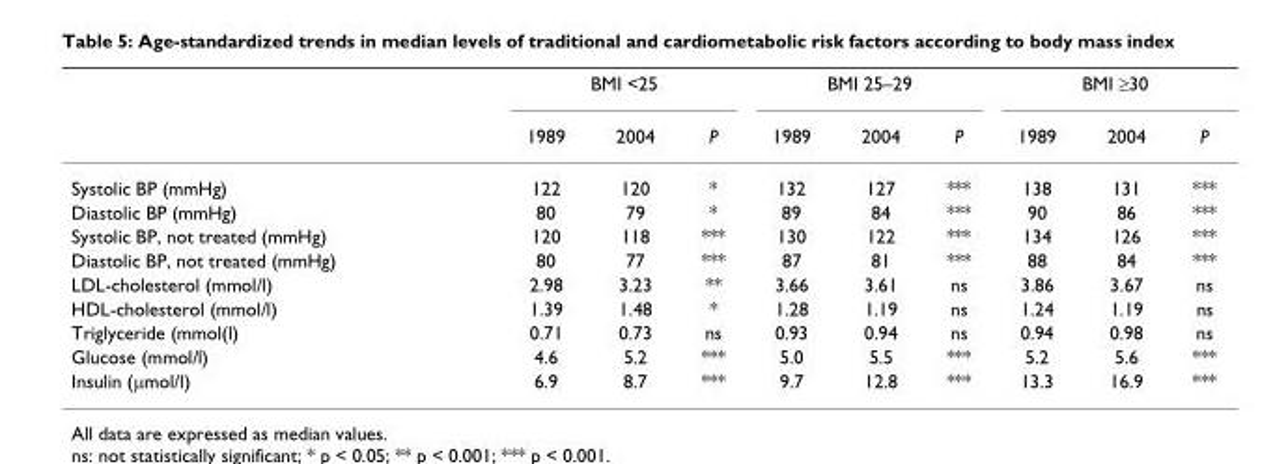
<table><thead><tr><td rowspan="2"></td><td colspan="3">BMI &lt;25</td><td colspan="3">BMI 25–29</td><td colspan="3">BMI ≥30</td></tr><tr><td>1989</td><td>2004</td><td>P</td><td>1989</td><td>2004</td><td>P</td><td>1989</td><td>2004</td><td>P</td></tr></thead><tbody><tr><td>Systolic BP (mmHg)</td><td>122</td><td>120</td><td>*</td><td>132</td><td>127</td><td>***</td><td>138</td><td>131</td><td>***</td></tr><tr><td>Diastolic BP (mmHg)</td><td>80</td><td>79</td><td>*</td><td>89</td><td>84</td><td>***</td><td>90</td><td>86</td><td>***</td></tr><tr><td>Systolic BP, not treated (mmHg)</td><td>120</td><td>118</td><td>***</td><td>130</td><td>122</td><td>***</td><td>134</td><td>126</td><td>***</td></tr><tr><td>Diastolic BP, not treated (mmHg)</td><td>80</td><td>77</td><td>***</td><td>87</td><td>81</td><td>***</td><td>88</td><td>84</td><td>***</td></tr><tr><td>LDL-cholesterol (mmol/l)</td><td>2.98</td><td>3.23</td><td>**</td><td>3.66</td><td>3.61</td><td>ns</td><td>3.86</td><td>3.67</td><td>ns</td></tr><tr><td>HDL-cholesterol (mmol/l)</td><td>1.39</td><td>1.48</td><td>*</td><td>1.28</td><td>1.19</td><td>ns</td><td>1.24</td><td>1.19</td><td>ns</td></tr><tr><td>Triglyceride (mmol(l)</td><td>0.71</td><td>0.73</td><td>ns</td><td>0.93</td><td>0.94</td><td>ns</td><td>0.94</td><td>0.98</td><td>ns</td></tr><tr><td>Glucose (mmol/l)</td><td>4.6</td><td>5.2</td><td>***</td><td>5.0</td><td>5.5</td><td>***</td><td>5.2</td><td>5.6</td><td>***</td></tr><tr><td>Insulin (μmol/l)</td><td>6.9</td><td>8.7</td><td>***</td><td>9.7</td><td>12.8</td><td>***</td><td>13.3</td><td>16.9</td><td>***</td></tr></tbody></table>